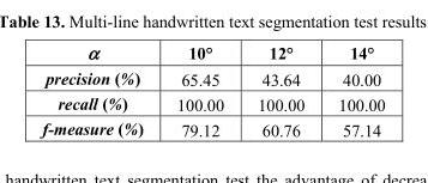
<table><thead><tr><td>α</td><td>10°</td><td>12°</td><td>14°</td></tr></thead><tbody><tr><td>precision (%)</td><td>65.45</td><td>43.64</td><td>40.00</td></tr><tr><td>recall (%)</td><td>100.00</td><td>100.00</td><td>100.00</td></tr><tr><td>f-measure (%)</td><td>79.12</td><td>60.76</td><td>57.14</td></tr></tbody></table>